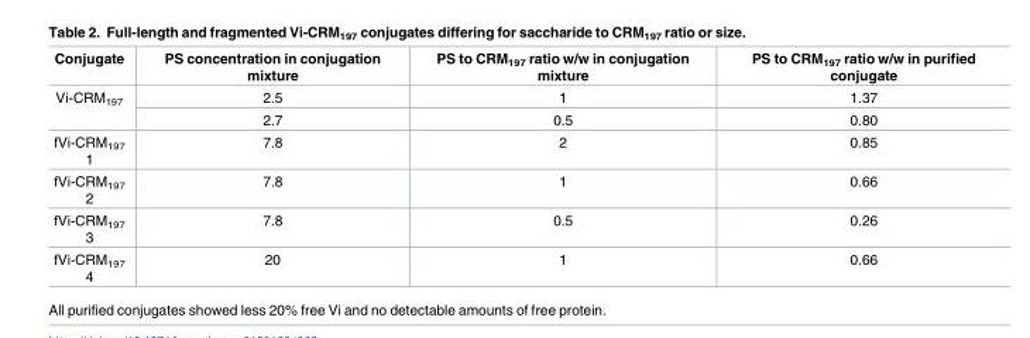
<table><thead><tr><td>Conjugate</td><td>PS concentration in conjugation mixture</td><td>PS to CRM<sub>197</sub> ratio w/w in conjugation mixture</td><td>PS to CRM<sub>197</sub> ratio w/w in purified conjugate</td></tr></thead><tbody><tr><td rowspan="2">Vi-CRM<sub>197</sub></td><td>2.5</td><td>1</td><td>1.37</td></tr><tr><td>2.7</td><td>0.5</td><td>0.80</td></tr><tr><td>fVi-CRM<sub>197</sub> 1</td><td>7.8</td><td>2</td><td>0.85</td></tr><tr><td>fVi-CRM<sub>197</sub> 2</td><td>7.8</td><td>1</td><td>0.66</td></tr><tr><td>fVi-CRM<sub>197</sub> 3</td><td>7.8</td><td>0.5</td><td>0.26</td></tr><tr><td>fVi-CRM<sub>197</sub> 4</td><td>20</td><td>1</td><td>0.66</td></tr></tbody></table>